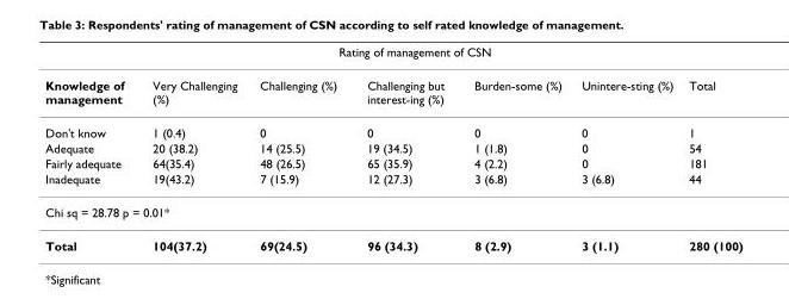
<table><thead><tr><td colspan="7">Rating of management of CSN</td></tr><tr><td>Knowledge of management</td><td>Very Challenging (%)</td><td>Challenging (%)</td><td>Challenging but interest-ing (%)</td><td>Burden-some (%)</td><td>Unintere-sting (%)</td><td>Total</td></tr></thead><tbody><tr><td>Don&#x27;t know</td><td>1 (0.4)</td><td>0</td><td>0</td><td>0</td><td>0</td><td>1</td></tr><tr><td>Adequate</td><td>20 (38.2)</td><td>14 (25.5)</td><td>19 (34.5)</td><td>1 (1.8)</td><td>0</td><td>54</td></tr><tr><td>Fairly adequate</td><td>64(35.4)</td><td>48 (26.5)</td><td>65 (35.9)</td><td>4 (2.2)</td><td>0</td><td>181</td></tr><tr><td>Inadequate</td><td>19(43.2)</td><td>7 (15.9)</td><td>12 (27.3)</td><td>3 (6.8)</td><td>3 (6.8)</td><td>44</td></tr><tr><td colspan="7">Chi sq = 28.78 p = 0.01*</td></tr><tr><td>Total</td><td>104(37.2)</td><td>69(24.5)</td><td>96 (34.3)</td><td>8 (2.9)</td><td>3 (1.1)</td><td>280 (100)</td></tr></tbody></table>